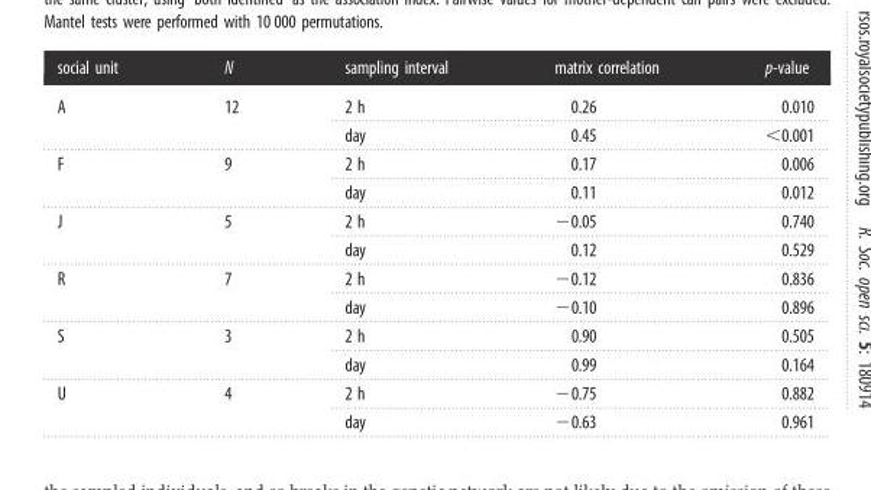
<table><thead><tr><td>social unit</td><td>N</td><td>sampling interval</td><td>matrix correlation</td><td>p-value</td></tr></thead><tbody><tr><td rowspan="2">A</td><td rowspan="2">12</td><td>2 h</td><td>0.26</td><td>0.010</td></tr><tr><td>day</td><td>0.45</td><td>&lt;0.001</td></tr><tr><td rowspan="2">F</td><td rowspan="2">9</td><td>2 h</td><td>0.17</td><td>0.006</td></tr><tr><td>day</td><td>0.11</td><td>0.012</td></tr><tr><td rowspan="2">J</td><td rowspan="2">5</td><td>2 h</td><td>−0.05</td><td>0.740</td></tr><tr><td>day</td><td>0.12</td><td>0.529</td></tr><tr><td rowspan="2">R</td><td rowspan="2">7</td><td>2 h</td><td>−0.12</td><td>0.836</td></tr><tr><td>day</td><td>−0.10</td><td>0.896</td></tr><tr><td rowspan="2">S</td><td rowspan="2">3</td><td>2 h</td><td>0.90</td><td>0.505</td></tr><tr><td>day</td><td>0.99</td><td>0.164</td></tr><tr><td rowspan="2">U</td><td rowspan="2">4</td><td>2 h</td><td>−0.75</td><td>0.882</td></tr><tr><td>day</td><td>−0.63</td><td>0.961</td></tr></tbody></table>